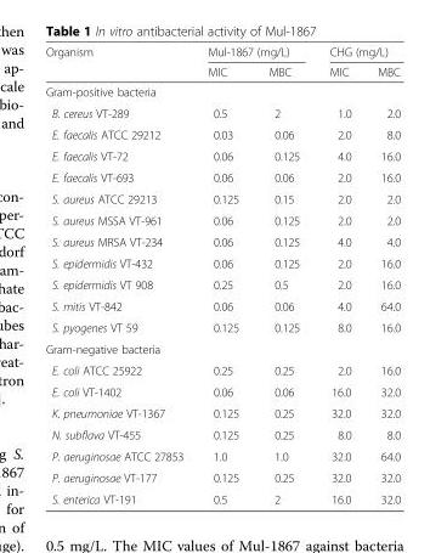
<table><thead><tr><td rowspan="2">Organism</td><td colspan="2">Mul-1867 (mg/L)</td><td colspan="2">CHG (mg/L)</td></tr><tr><td>MIC</td><td>MBC</td><td>MIC</td><td>MBC</td></tr></thead><tbody><tr><td colspan="5">Gram-positive bacteria</td></tr><tr><td>B. cereus VT-289</td><td>0.5</td><td>2</td><td>1.0</td><td>2.0</td></tr><tr><td>E. faecalis ATCC 29212</td><td>0.03</td><td>0.06</td><td>2.0</td><td>8.0</td></tr><tr><td>E. faecalis VT-72</td><td>0.06</td><td>0.125</td><td>4.0</td><td>16.0</td></tr><tr><td>E. faecalis VT-693</td><td>0.06</td><td>0.06</td><td>2.0</td><td>16.0</td></tr><tr><td>S. aureus АТСС 29213</td><td>0.125</td><td>0.15</td><td>2.0</td><td>2.0</td></tr><tr><td>S. аureus MSSA VT-961</td><td>0.06</td><td>0.125</td><td>2.0</td><td>2.0</td></tr><tr><td>S. aureus MRSA VT-234</td><td>0.06</td><td>0.125</td><td>4.0</td><td>4.0</td></tr><tr><td>S. epidermidis VT-432</td><td>0.06</td><td>0.125</td><td>2.0</td><td>16.0</td></tr><tr><td>S. epidermidis VT 908</td><td>0.25</td><td>0.5</td><td>2.0</td><td>16.0</td></tr><tr><td>S. mitis VT-842</td><td>0.06</td><td>0.06</td><td>4.0</td><td>64.0</td></tr><tr><td>S. pyogenes VT 59</td><td>0.125</td><td>0.125</td><td>8.0</td><td>16.0</td></tr><tr><td>Gram-negative bacteria</td><td></td><td></td><td></td><td></td></tr><tr><td>E. coli АТСС 25922</td><td>0.25</td><td>0.25</td><td>2.0</td><td>16.0</td></tr><tr><td>E. coli VT-1402</td><td>0.06</td><td>0.06</td><td>16.0</td><td>32.0</td></tr><tr><td>K. pneumoniae VT-1367</td><td>0.125</td><td>0.25</td><td>32.0</td><td>32.0</td></tr><tr><td>N. subflava VT-455</td><td>0.125</td><td>0.25</td><td>8.0</td><td>8.0</td></tr><tr><td>P. aeruginosae ATCC 27853</td><td>1.0</td><td>1.0</td><td>32.0</td><td>64.0</td></tr><tr><td>P. aeruginosae VT-177</td><td>0.125</td><td>0.25</td><td>32.0</td><td>32.0</td></tr><tr><td>S. enterica VT-191</td><td>0.5</td><td>2</td><td>16.0</td><td>32.0</td></tr></tbody></table>